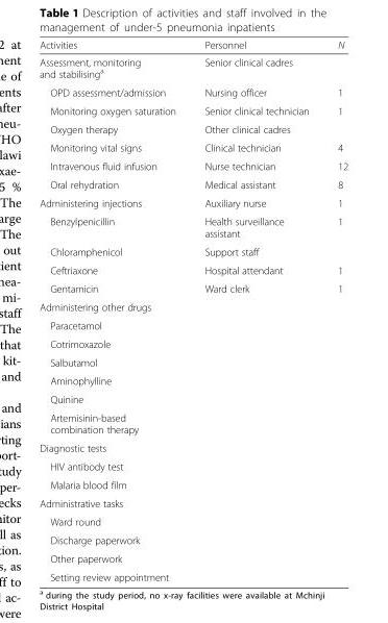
<table><thead><tr><td>Activities</td><td>Personnel</td><td>N</td></tr></thead><tbody><tr><td>Assessment, monitoring and stabilising<sup>a</sup></td><td>Senior clinical cadres</td><td></td></tr><tr><td>OPD assessment/admission</td><td>Nursing officer</td><td>1</td></tr><tr><td>Monitoring oxygen saturation</td><td>Senior clinical technician</td><td>1</td></tr><tr><td>Oxygen therapy</td><td>Other clinical cadres</td><td></td></tr><tr><td>Monitoring vital signs</td><td>Clinical technician</td><td>4</td></tr><tr><td>Intravenous fluid infusion</td><td>Nurse technician</td><td>12</td></tr><tr><td>Oral rehydration</td><td>Medical assistant</td><td>8</td></tr><tr><td>Administering injections</td><td>Auxiliary nurse</td><td>1</td></tr><tr><td>Benzylpenicillin</td><td>Health surveillance assistant</td><td>1</td></tr><tr><td>Chloramphenicol</td><td>Support staff</td><td></td></tr><tr><td>Ceftriaxone</td><td>Hospital attendant</td><td>1</td></tr><tr><td>Gentamicin</td><td>Ward clerk</td><td>1</td></tr><tr><td colspan="3">Administering other drugs</td></tr><tr><td colspan="3">Paracetamol</td></tr><tr><td colspan="3">Cotrimoxazole</td></tr><tr><td colspan="3">Salbutamol</td></tr><tr><td colspan="3">Aminophylline</td></tr><tr><td colspan="3">Quinine</td></tr><tr><td colspan="3">Artemisinin-based combination therapy</td></tr><tr><td colspan="3">Diagnostic tests</td></tr><tr><td colspan="3">HIV antibody test</td></tr><tr><td colspan="3">Malaria blood film</td></tr><tr><td colspan="3">Administrative tasks</td></tr><tr><td colspan="3">Ward round</td></tr><tr><td colspan="3">Discharge paperwork</td></tr><tr><td colspan="3">Other paperwork</td></tr><tr><td>Setting review appointment</td><td></td><td></td></tr></tbody></table>